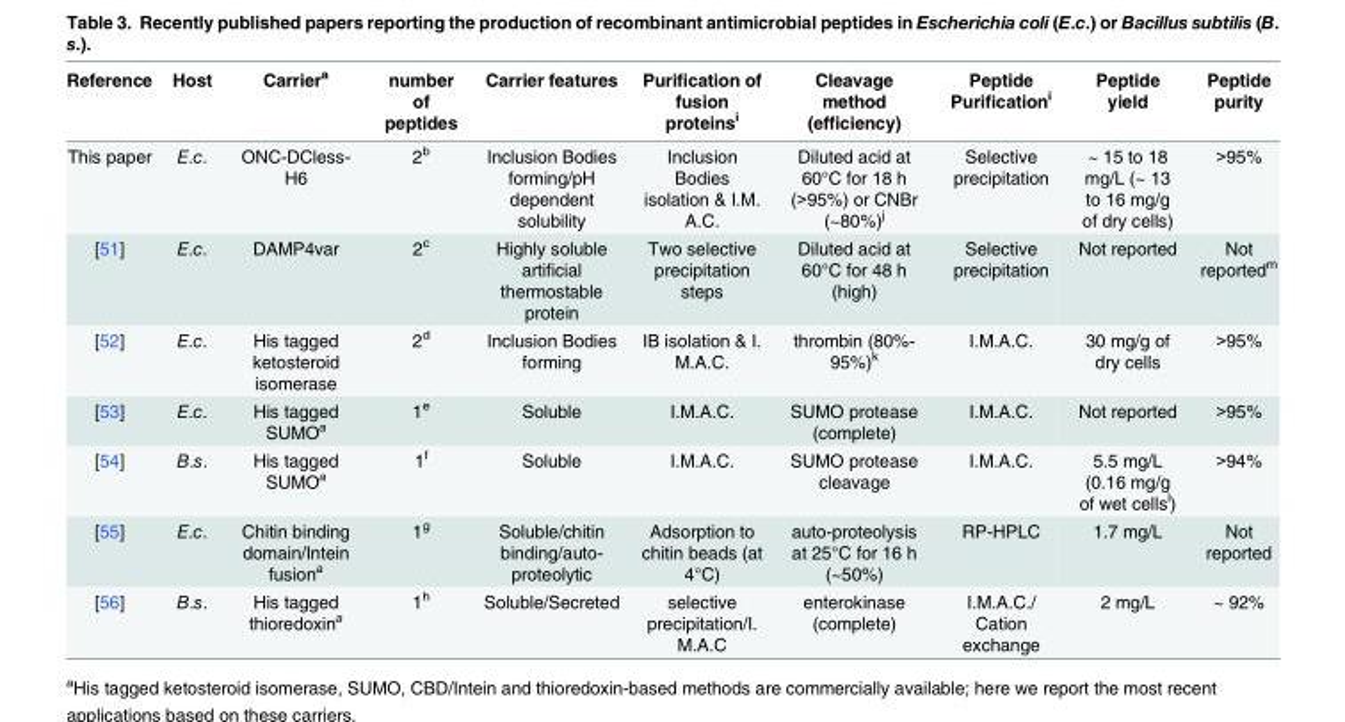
<table><thead><tr><td>Reference</td><td>Host</td><td>Carrier<sup>a</sup></td><td>number of peptides</td><td>Carrier features</td><td>Purification of fusion proteins<sup>i</sup></td><td>Cleavage method (efficiency)</td><td>Peptide Purification<sup>i</sup></td><td>Peptide yield</td><td>Peptide purity</td></tr></thead><tbody><tr><td>This paper</td><td>E.c.</td><td>ONC-DCless- H6</td><td>2<sup>b</sup></td><td>Inclusion Bodies forming/pH dependent solubility</td><td>Inclusion Bodies isolation &amp; I.M. A.C.</td><td>Diluted acid at 60°C for 18 h (&gt;95%) or CNBr (~80%)<sup>j</sup></td><td>Selective precipitation</td><td>~ 15 to 18 mg/L (~ 13 to 16 mg/g of dry cells)</td><td>&gt;95%</td></tr><tr><td>[51]</td><td>E.c.</td><td>DAMP4var</td><td>2<sup>c</sup></td><td>Highly soluble artificial thermostable protein</td><td>Two selective precipitation steps</td><td>Diluted acid at 60°C for 48 h (high)</td><td>Selective precipitation</td><td>Not reported</td><td>Not reported<sup>m</sup></td></tr><tr><td>[52]</td><td>E.c.</td><td>His tagged ketosteroid isomerase</td><td>2<sup>d</sup></td><td>Inclusion Bodies forming</td><td>IB isolation &amp; I. M.A.C.</td><td>thrombin (80%- 95%)<sup>k</sup></td><td>I.M.A.C.</td><td>30 mg/g of dry cells</td><td>&gt;95%</td></tr><tr><td>[53]</td><td>E.c.</td><td>His tagged SUMO<sup>a</sup></td><td>1<sup>e</sup></td><td>Soluble</td><td>I.M.A.C.</td><td>SUMO protease (complete)</td><td>I.M.A.C.</td><td>Not reported</td><td>&gt;95%</td></tr><tr><td>[54]</td><td>B.s.</td><td>His tagged SUMO<sup>a</sup></td><td>1<sup>f</sup></td><td>Soluble</td><td>I.M.A.C.</td><td>SUMO protease cleavage</td><td>I.M.A.C.</td><td>5.5 mg/L (0.16 mg/g of wet cells<sup>l</sup>)</td><td>&gt;94%</td></tr><tr><td>[55]</td><td>E.c.</td><td>Chitin binding domain/Intein fusion<sup>a</sup></td><td>1<sup>g</sup></td><td>Soluble/chitin binding/auto- proteolytic</td><td>Adsorption to chitin beads (at 4°C)</td><td>auto-proteolysis at 25°C for 16 h (~50%)</td><td>RP-HPLC</td><td>1.7 mg/L</td><td>Not reported</td></tr><tr><td>[56]</td><td>B.s.</td><td>His tagged thioredoxin<sup>a</sup></td><td>1<sup>h</sup></td><td>Soluble/Secreted</td><td>selective precipitation/I. M.A.C</td><td>enterokinase (complete)</td><td>I.M.A.C./ Cation exchange</td><td>2 mg/L</td><td>~ 92%</td></tr></tbody></table>